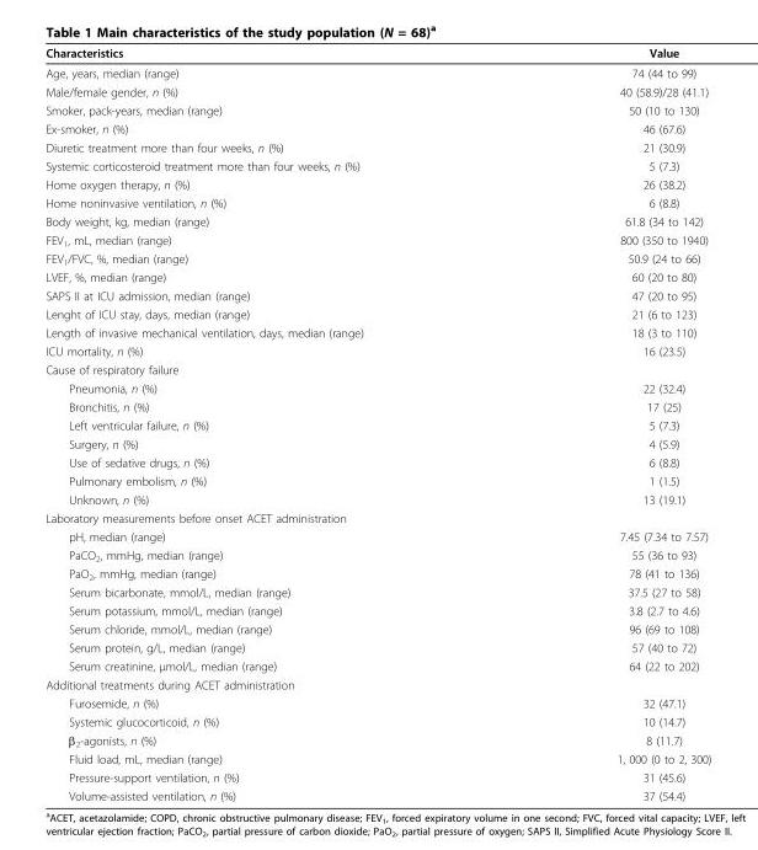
<table><thead><tr><td>Characteristics</td><td>Value</td></tr></thead><tbody><tr><td>Age, years, median (range)</td><td>74 (44 to 99)</td></tr><tr><td>Male/female gender, n (%)</td><td>40 (58.9)/28 (41.1)</td></tr><tr><td>Smoker, pack-years, median (range)</td><td>50 (10 to 130)</td></tr><tr><td>Ex-smoker, n (%)</td><td>46 (67.6)</td></tr><tr><td>Diuretic treatment more than four weeks, n (%)</td><td>21 (30.9)</td></tr><tr><td>Systemic corticosteroid treatment more than four weeks, n (%)</td><td>5 (7.3)</td></tr><tr><td>Home oxygen therapy, n (%)</td><td>26 (38.2)</td></tr><tr><td>Home noninvasive ventilation, n (%)</td><td>6 (8.8)</td></tr><tr><td>Body weight, kg, median (range)</td><td>61.8 (34 to 142)</td></tr><tr><td>FEV<sub>1</sub>, mL, median (range)</td><td>800 (350 to 1940)</td></tr><tr><td>FEV<sub>1</sub>/FVC, %, median (range)</td><td>50.9 (24 to 66)</td></tr><tr><td>LVEF, %, median (range)</td><td>60 (20 to 80)</td></tr><tr><td>SAPS II at ICU admission, median (range)</td><td>47 (20 to 95)</td></tr><tr><td>Lenght of ICU stay, days, median (range)</td><td>21 (6 to 123)</td></tr><tr><td>Length of invasive mechanical ventilation, days, median (range)</td><td>18 (3 to 110)</td></tr><tr><td>ICU mortality, n (%)</td><td>16 (23.5)</td></tr><tr><td colspan="2">Cause of respiratory failure</td></tr><tr><td>Pneumonia, n (%)</td><td>22 (32.4)</td></tr><tr><td>Bronchitis, n (%)</td><td>17 (25)</td></tr><tr><td>Left ventricular failure, n (%)</td><td>5 (7.3)</td></tr><tr><td>Surgery, n (%)</td><td>4 (5.9)</td></tr><tr><td>Use of sedative drugs, n (%)</td><td>6 (8.8)</td></tr><tr><td>Pulmonary embolism, n (%)</td><td>1 (1.5)</td></tr><tr><td>Unknown, n (%)</td><td>13 (19.1)</td></tr><tr><td colspan="2">Laboratory measurements before onset ACET administration</td></tr><tr><td>pH, median (range)</td><td>7.45 (7.34 to 7.57)</td></tr><tr><td>PaCO<sub>2</sub>, mmHg, median (range)</td><td>55 (36 to 93)</td></tr><tr><td>PaO<sub>2</sub>, mmHg, median (range)</td><td>78 (41 to 136)</td></tr><tr><td>Serum bicarbonate, mmol/L, median (range)</td><td>37.5 (27 to 58)</td></tr><tr><td>Serum potassium, mmol/L, median (range)</td><td>3.8 (2.7 to 4.6)</td></tr><tr><td>Serum chloride, mmol/L, median (range)</td><td>96 (69 to 108)</td></tr><tr><td>Serum protein, g/L, median (range)</td><td>57 (40 to 72)</td></tr><tr><td>Serum creatinine, μmol/L, median (range)</td><td>64 (22 to 202)</td></tr><tr><td colspan="2">Additional treatments during ACET administration</td></tr><tr><td>Furosemide, n (%)</td><td>32 (47.1)</td></tr><tr><td>Systemic glucocorticoid, n (%)</td><td>10 (14.7)</td></tr><tr><td>β<sub>2</sub>-agonists, n (%)</td><td>8 (11.7)</td></tr><tr><td>Fluid load, mL, median (range)</td><td>1, 000 (0 to 2, 300)</td></tr><tr><td>Pressure-support ventilation, n (%)</td><td>31 (45.6)</td></tr><tr><td>Volume-assisted ventilation, n (%)</td><td>37 (54.4)</td></tr></tbody></table>